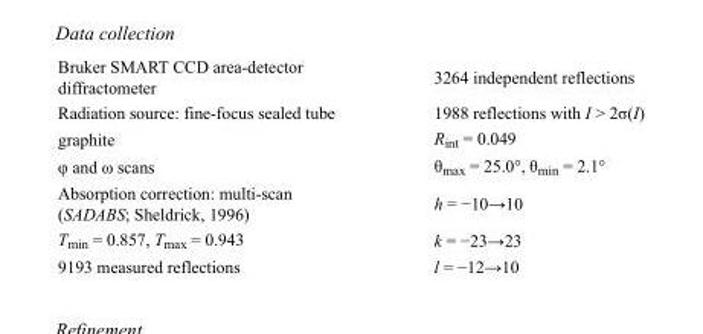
<table><tbody><tr><td>Bruker SMART CCD area-detector diffractometer</td><td>3264 independent reflections</td></tr><tr><td>Radiation source: fine-focus sealed tube</td><td>1988 reflections with I &gt; 2σ(I)</td></tr><tr><td>graphite</td><td>R<sub>int</sub> = 0.049</td></tr><tr><td>φ and ω scans</td><td>θ<sub>max</sub> = 25.0°, θ<sub>min</sub> = 2.1°</td></tr><tr><td>Absorption correction: multi-scan (SADABS; Sheldrick, 1996)</td><td>h = −10→10</td></tr><tr><td>T<sub>min</sub> = 0.857, T<sub>max</sub> = 0.943</td><td>k = −23→23</td></tr><tr><td>9193 measured reflections</td><td>l = −12→10</td></tr></tbody></table>